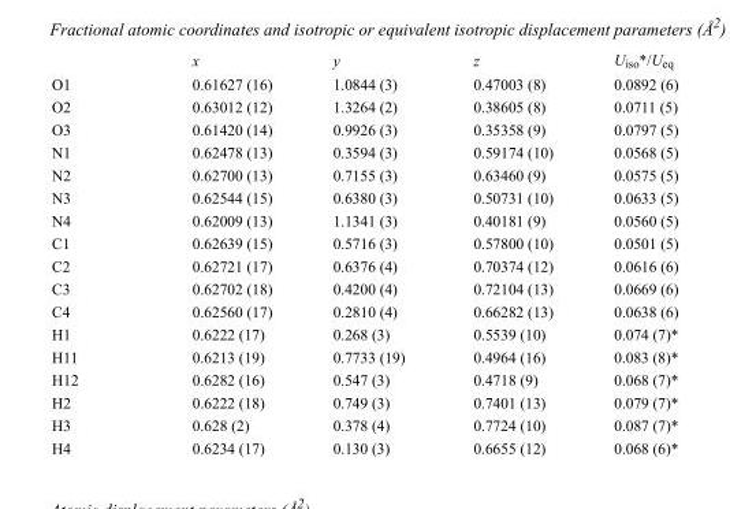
<table><thead><tr><td></td><td>x</td><td>y</td><td>z</td><td>U<sub>iso</sub>*/U<sub>eq</sub></td></tr></thead><tbody><tr><td>O1</td><td>0.61627 (16)</td><td>1.0844 (3)</td><td>0.47003 (8)</td><td>0.0892 (6)</td></tr><tr><td>O2</td><td>0.63012 (12)</td><td>1.3264 (2)</td><td>0.38605 (8)</td><td>0.0711 (5)</td></tr><tr><td>O3</td><td>0.61420 (14)</td><td>0.9926 (3)</td><td>0.35358 (9)</td><td>0.0797 (5)</td></tr><tr><td>N1</td><td>0.62478 (13)</td><td>0.3594 (3)</td><td>0.59174 (10)</td><td>0.0568 (5)</td></tr><tr><td>N2</td><td>0.62700 (13)</td><td>0.7155 (3)</td><td>0.63460 (9)</td><td>0.0575 (5)</td></tr><tr><td>N3</td><td>0.62544 (15)</td><td>0.6380 (3)</td><td>0.50731 (10)</td><td>0.0633 (5)</td></tr><tr><td>N4</td><td>0.62009 (13)</td><td>1.1341 (3)</td><td>0.40181 (9)</td><td>0.0560 (5)</td></tr><tr><td>C1</td><td>0.62639 (15)</td><td>0.5716 (3)</td><td>0.57800 (10)</td><td>0.0501 (5)</td></tr><tr><td>C2</td><td>0.62721 (17)</td><td>0.6376 (4)</td><td>0.70374 (12)</td><td>0.0616 (6)</td></tr><tr><td>C3</td><td>0.62702 (18)</td><td>0.4200 (4)</td><td>0.72104 (13)</td><td>0.0669 (6)</td></tr><tr><td>C4</td><td>0.62560 (17)</td><td>0.2810 (4)</td><td>0.66282 (13)</td><td>0.0638 (6)</td></tr><tr><td>H1</td><td>0.6222 (17)</td><td>0.268 (3)</td><td>0.5539 (10)</td><td>0.074 (7)*</td></tr><tr><td>H11</td><td>0.6213 (19)</td><td>0.7733 (19)</td><td>0.4964 (16)</td><td>0.083 (8)*</td></tr><tr><td>H12</td><td>0.6282 (16)</td><td>0.547 (3)</td><td>0.4718 (9)</td><td>0.068 (7)*</td></tr><tr><td>H2</td><td>0.6222 (18)</td><td>0.749 (3)</td><td>0.7401 (13)</td><td>0.079 (7)*</td></tr><tr><td>H3</td><td>0.628 (2)</td><td>0.378 (4)</td><td>0.7724 (10)</td><td>0.087 (7)*</td></tr><tr><td>H4</td><td>0.6234 (17)</td><td>0.130 (3)</td><td>0.6655 (12)</td><td>0.068 (6)*</td></tr></tbody></table>